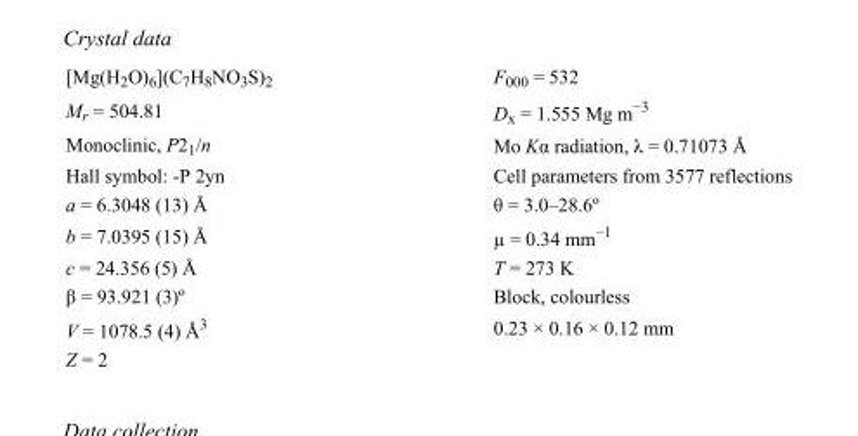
<table><tbody><tr><td>[Mg(H<sub>2</sub>O)<sub>6</sub>](C<sub>7</sub>H<sub>8</sub>NO<sub>3</sub>S)<sub>2</sub></td><td>F000 = 532</td></tr><tr><td>M<sub>r</sub> = 504.81</td><td>D<sub>x</sub> = 1.555 Mg m<sup>−3</sup></td></tr><tr><td>Monoclinic, P2<sub>1</sub>/n</td><td>Mo Kα radiation, λ = 0.71073 Å</td></tr><tr><td>Hall symbol: -P 2yn</td><td>Cell parameters from 3577 reflections</td></tr><tr><td>a = 6.3048 (13) Å</td><td>θ = 3.0–28.6º</td></tr><tr><td>b = 7.0395 (15) Å</td><td>µ = 0.34 mm<sup>−1</sup></td></tr><tr><td>c = 24.356 (5) Å</td><td>T = 273 K</td></tr><tr><td>β = 93.921 (3)º</td><td>Block, colourless</td></tr><tr><td>V = 1078.5 (4) Å<sup>3</sup></td><td>0.23 × 0.16 × 0.12 mm</td></tr><tr><td>Z = 2</td><td></td></tr></tbody></table>